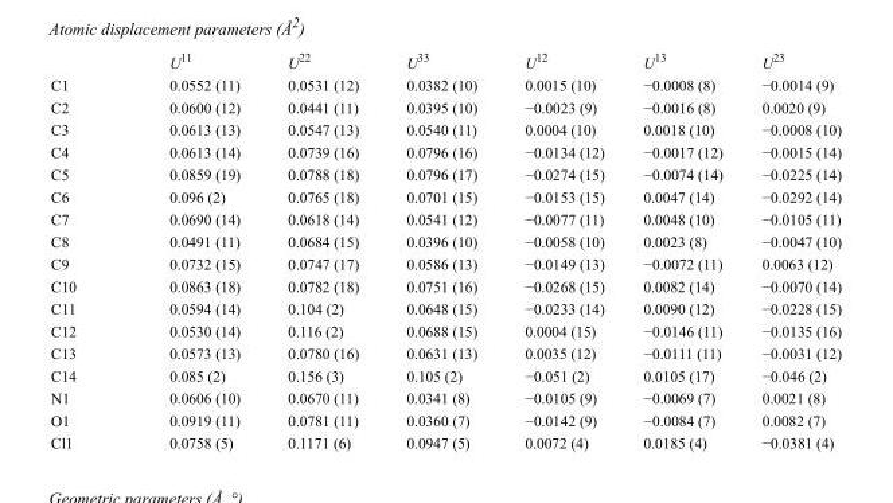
<table><thead><tr><td></td><td>U<sup>11</sup></td><td>U<sup>22</sup></td><td>U<sup>33</sup></td><td>U<sup>12</sup></td><td>U<sup>13</sup></td><td>U<sup>23</sup></td></tr></thead><tbody><tr><td>C1</td><td>0.0552 (11)</td><td>0.0531 (12)</td><td>0.0382 (10)</td><td>0.0015 (10)</td><td>−0.0008 (8)</td><td>−0.0014 (9)</td></tr><tr><td>C2</td><td>0.0600 (12)</td><td>0.0441 (11)</td><td>0.0395 (10)</td><td>−0.0023 (9)</td><td>−0.0016 (8)</td><td>0.0020 (9)</td></tr><tr><td>C3</td><td>0.0613 (13)</td><td>0.0547 (13)</td><td>0.0540 (11)</td><td>0.0004 (10)</td><td>0.0018 (10)</td><td>−0.0008 (10)</td></tr><tr><td>C4</td><td>0.0613 (14)</td><td>0.0739 (16)</td><td>0.0796 (16)</td><td>−0.0134 (12)</td><td>−0.0017 (12)</td><td>−0.0015 (14)</td></tr><tr><td>C5</td><td>0.0859 (19)</td><td>0.0788 (18)</td><td>0.0796 (17)</td><td>−0.0274 (15)</td><td>−0.0074 (14)</td><td>−0.0225 (14)</td></tr><tr><td>C6</td><td>0.096 (2)</td><td>0.0765 (18)</td><td>0.0701 (15)</td><td>−0.0153 (15)</td><td>0.0047 (14)</td><td>−0.0292 (14)</td></tr><tr><td>C7</td><td>0.0690 (14)</td><td>0.0618 (14)</td><td>0.0541 (12)</td><td>−0.0077 (11)</td><td>0.0048 (10)</td><td>−0.0105 (11)</td></tr><tr><td>C8</td><td>0.0491 (11)</td><td>0.0684 (15)</td><td>0.0396 (10)</td><td>−0.0058 (10)</td><td>0.0023 (8)</td><td>−0.0047 (10)</td></tr><tr><td>C9</td><td>0.0732 (15)</td><td>0.0747 (17)</td><td>0.0586 (13)</td><td>−0.0149 (13)</td><td>−0.0072 (11)</td><td>0.0063 (12)</td></tr><tr><td>C10</td><td>0.0863 (18)</td><td>0.0782 (18)</td><td>0.0751 (16)</td><td>−0.0268 (15)</td><td>0.0082 (14)</td><td>−0.0070 (14)</td></tr><tr><td>C11</td><td>0.0594 (14)</td><td>0.104 (2)</td><td>0.0648 (15)</td><td>−0.0233 (14)</td><td>0.0090 (12)</td><td>−0.0228 (15)</td></tr><tr><td>C12</td><td>0.0530 (14)</td><td>0.116 (2)</td><td>0.0688 (15)</td><td>0.0004 (15)</td><td>−0.0146 (11)</td><td>−0.0135 (16)</td></tr><tr><td>C13</td><td>0.0573 (13)</td><td>0.0780 (16)</td><td>0.0631 (13)</td><td>0.0035 (12)</td><td>−0.0111 (11)</td><td>−0.0031 (12)</td></tr><tr><td>C14</td><td>0.085 (2)</td><td>0.156 (3)</td><td>0.105 (2)</td><td>−0.051 (2)</td><td>0.0105 (17)</td><td>−0.046 (2)</td></tr><tr><td>N1</td><td>0.0606 (10)</td><td>0.0670 (11)</td><td>0.0341 (8)</td><td>−0.0105 (9)</td><td>−0.0069 (7)</td><td>0.0021 (8)</td></tr><tr><td>O1</td><td>0.0919 (11)</td><td>0.0781 (11)</td><td>0.0360 (7)</td><td>−0.0142 (9)</td><td>−0.0084 (7)</td><td>0.0082 (7)</td></tr><tr><td>Cl1</td><td>0.0758 (5)</td><td>0.1171 (6)</td><td>0.0947 (5)</td><td>0.0072 (4)</td><td>0.0185 (4)</td><td>−0.0381 (4)</td></tr></tbody></table>